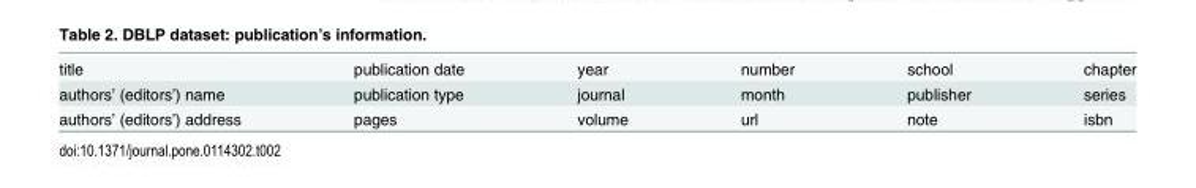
<table><tbody><tr><td>title</td><td>publication date</td><td>year</td><td>number</td><td>school</td><td>chapter</td></tr><tr><td>authors’ (editors’) name</td><td>publication type</td><td>journal</td><td>month</td><td>publisher</td><td>series</td></tr><tr><td>authors’ (editors’) address</td><td>pages</td><td>volume</td><td>url</td><td>note</td><td>isbn</td></tr></tbody></table>